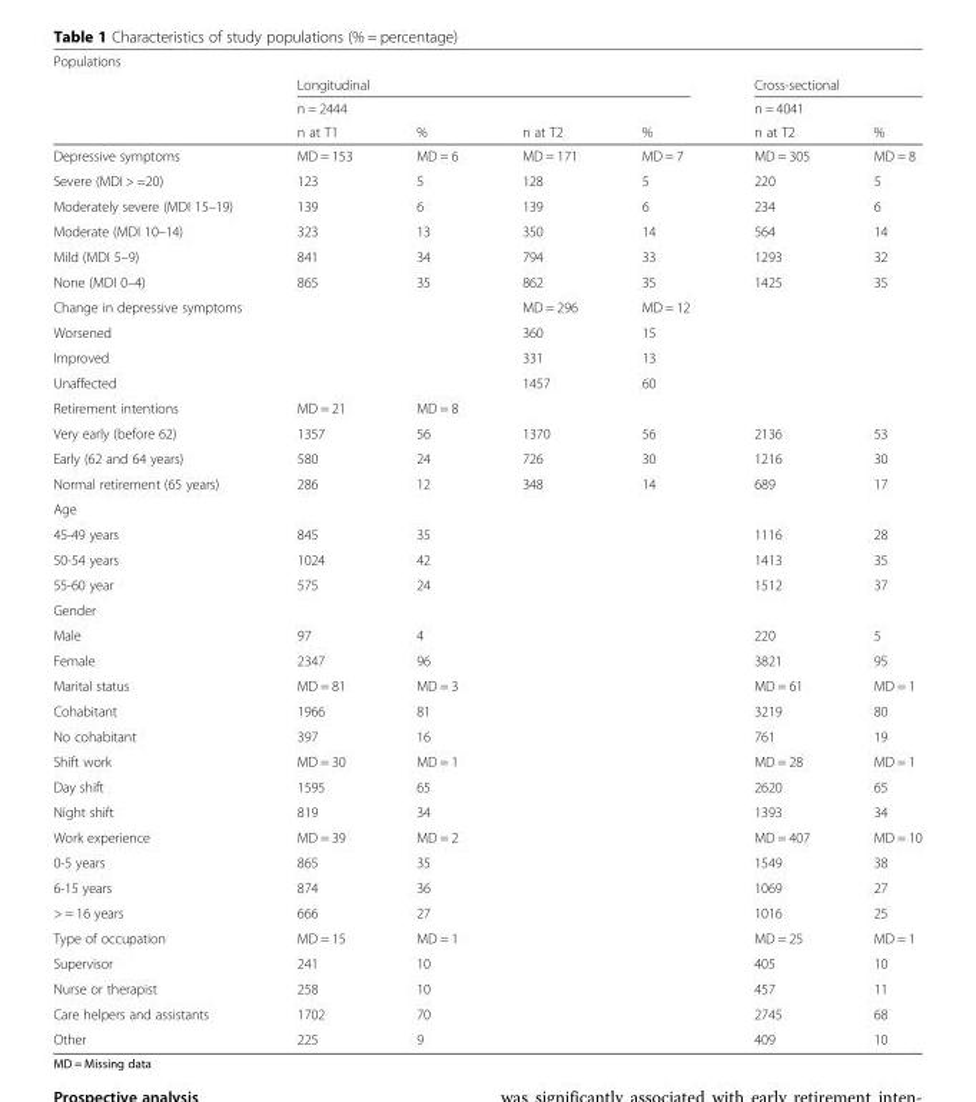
<table><thead><tr><td colspan="7">Populations</td></tr><tr><td rowspan="3"></td><td rowspan="2" colspan="4">Longitudinal n = 2444</td><td rowspan="2" colspan="2">Cross-sectional n = 4041</td></tr><tr></tr><tr><td>n at T1</td><td>%</td><td>n at T2</td><td>%</td><td>n at T2</td><td>%</td></tr></thead><tbody><tr><td>Depressive symptoms</td><td>MD = 153</td><td>MD = 6</td><td>MD = 171</td><td>MD = 7</td><td>MD = 305</td><td>MD = 8</td></tr><tr><td>Severe (MDI &gt; =20)</td><td>123</td><td>5</td><td>128</td><td>5</td><td>220</td><td>5</td></tr><tr><td>Moderately severe (MDI 15–19)</td><td>139</td><td>6</td><td>139</td><td>6</td><td>234</td><td>6</td></tr><tr><td>Moderate (MDI 10–14)</td><td>323</td><td>13</td><td>350</td><td>14</td><td>564</td><td>14</td></tr><tr><td>Mild (MDI 5–9)</td><td>841</td><td>34</td><td>794</td><td>33</td><td>1293</td><td>32</td></tr><tr><td>None (MDI 0–4)</td><td>865</td><td>35</td><td>862</td><td>35</td><td>1425</td><td>35</td></tr><tr><td colspan="2">Change in depressive symptoms</td><td></td><td>MD = 296</td><td>MD = 12</td><td></td><td></td></tr><tr><td>Worsened</td><td></td><td></td><td>360</td><td>15</td><td></td><td></td></tr><tr><td>Improved</td><td></td><td></td><td>331</td><td>13</td><td></td><td></td></tr><tr><td>Unaffected</td><td></td><td></td><td>1457</td><td>60</td><td></td><td></td></tr><tr><td>Retirement intentions</td><td>MD = 21</td><td>MD = 8</td><td></td><td></td><td></td><td></td></tr><tr><td>Very early (before 62)</td><td>1357</td><td>56</td><td>1370</td><td>56</td><td>2136</td><td>53</td></tr><tr><td>Early (62 and 64 years)</td><td>580</td><td>24</td><td>726</td><td>30</td><td>1216</td><td>30</td></tr><tr><td>Normal retirement (65 years)</td><td>286</td><td>12</td><td>348</td><td>14</td><td>689</td><td>17</td></tr><tr><td colspan="7">Age</td></tr><tr><td>45-49 years</td><td>845</td><td>35</td><td></td><td></td><td>1116</td><td>28</td></tr><tr><td>50-54 years</td><td>1024</td><td>42</td><td></td><td></td><td>1413</td><td>35</td></tr><tr><td>55-60 year</td><td>575</td><td>24</td><td></td><td></td><td>1512</td><td>37</td></tr><tr><td colspan="7">Gender</td></tr><tr><td>Male</td><td>97</td><td>4</td><td></td><td></td><td>220</td><td>5</td></tr><tr><td>Female</td><td>2347</td><td>96</td><td></td><td></td><td>3821</td><td>95</td></tr><tr><td>Marital status</td><td>MD = 81</td><td>MD = 3</td><td></td><td></td><td>MD = 61</td><td>MD = 1</td></tr><tr><td>Cohabitant</td><td>1966</td><td>81</td><td></td><td></td><td>3219</td><td>80</td></tr><tr><td>No cohabitant</td><td>397</td><td>16</td><td></td><td></td><td>761</td><td>19</td></tr><tr><td>Shift work</td><td>MD = 30</td><td>MD = 1</td><td></td><td></td><td>MD = 28</td><td>MD = 1</td></tr><tr><td>Day shift</td><td>1595</td><td>65</td><td></td><td></td><td>2620</td><td>65</td></tr><tr><td>Night shift</td><td>819</td><td>34</td><td></td><td></td><td>1393</td><td>34</td></tr><tr><td>Work experience</td><td>MD = 39</td><td>MD = 2</td><td></td><td></td><td>MD = 407</td><td>MD = 10</td></tr><tr><td>0-5 years</td><td>865</td><td>35</td><td></td><td></td><td>1549</td><td>38</td></tr><tr><td>6-15 years</td><td>874</td><td>36</td><td></td><td></td><td>1069</td><td>27</td></tr><tr><td>&gt; = 16 years</td><td>666</td><td>27</td><td></td><td></td><td>1016</td><td>25</td></tr><tr><td>Type of occupation</td><td>MD = 15</td><td>MD = 1</td><td></td><td></td><td>MD = 25</td><td>MD = 1</td></tr><tr><td>Supervisor</td><td>241</td><td>10</td><td></td><td></td><td>405</td><td>10</td></tr><tr><td>Nurse or therapist</td><td>258</td><td>10</td><td></td><td></td><td>457</td><td>11</td></tr><tr><td>Care helpers and assistants</td><td>1702</td><td>70</td><td></td><td></td><td>2745</td><td>68</td></tr><tr><td>Other</td><td>225</td><td>9</td><td></td><td></td><td>409</td><td>10</td></tr></tbody></table>